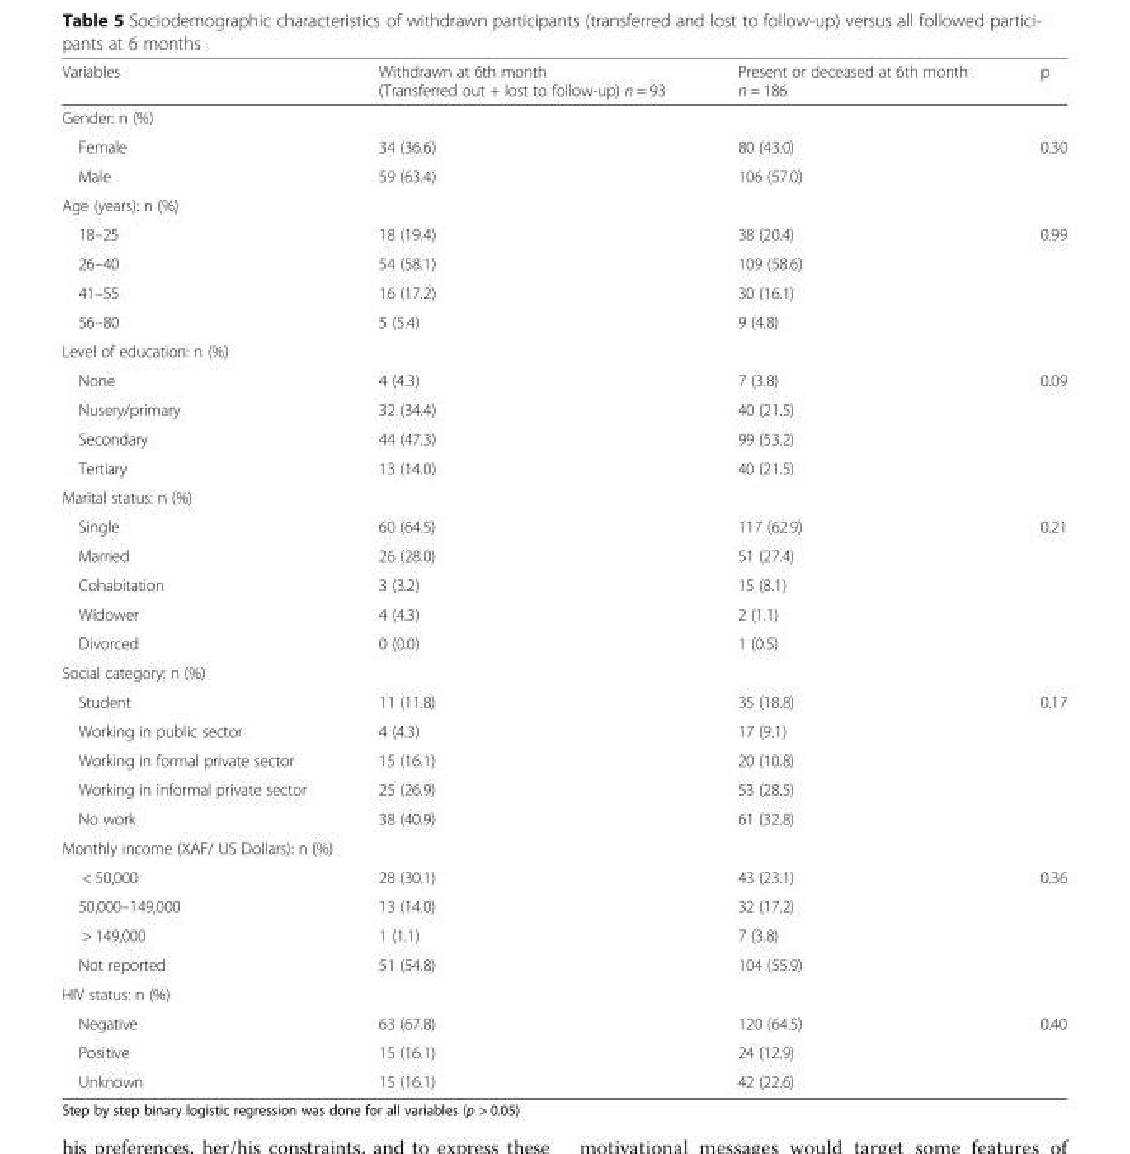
<table><thead><tr><td>Variables</td><td>Withdrawn at 6th month (Transferred out + lost to follow-up) n = 93</td><td>Present or deceased at 6th month n = 186</td><td>p</td></tr></thead><tbody><tr><td colspan="4">Gender: n (%)</td></tr><tr><td>Female</td><td>34 (36.6)</td><td>80 (43.0)</td><td rowspan="2">0.30</td></tr><tr><td>Male</td><td>59 (63.4)</td><td>106 (57.0)</td></tr><tr><td colspan="4">Age (years): n (%)</td></tr><tr><td>18–25</td><td>18 (19.4)</td><td>38 (20.4)</td><td rowspan="4">0.99</td></tr><tr><td>26–40</td><td>54 (58.1)</td><td>109 (58.6)</td></tr><tr><td>41–55</td><td>16 (17.2)</td><td>30 (16.1)</td></tr><tr><td>56–80</td><td>5 (5.4)</td><td>9 (4.8)</td></tr><tr><td colspan="4">Level of education: n (%)</td></tr><tr><td>None</td><td>4 (4.3)</td><td>7 (3.8)</td><td rowspan="4">0.09</td></tr><tr><td>Nusery/primary</td><td>32 (34.4)</td><td>40 (21.5)</td></tr><tr><td>Secondary</td><td>44 (47.3)</td><td>99 (53.2)</td></tr><tr><td>Tertiary</td><td>13 (14.0)</td><td>40 (21.5)</td></tr><tr><td colspan="4">Marital status: n (%)</td></tr><tr><td>Single</td><td>60 (64.5)</td><td>117 (62.9)</td><td rowspan="5">0.21</td></tr><tr><td>Married</td><td>26 (28.0)</td><td>51 (27.4)</td></tr><tr><td>Cohabitation</td><td>3 (3.2)</td><td>15 (8.1)</td></tr><tr><td>Widower</td><td>4 (4.3)</td><td>2 (1.1)</td></tr><tr><td>Divorced</td><td>0 (0.0)</td><td>1 (0.5)</td></tr><tr><td colspan="4">Social category: n (%)</td></tr><tr><td>Student</td><td>11 (11.8)</td><td>35 (18.8)</td><td rowspan="5">0.17</td></tr><tr><td>Working in public sector</td><td>4 (4.3)</td><td>17 (9.1)</td></tr><tr><td>Working in formal private sector</td><td>15 (16.1)</td><td>20 (10.8)</td></tr><tr><td>Working in informal private sector</td><td>25 (26.9)</td><td>53 (28.5)</td></tr><tr><td>No work</td><td>38 (40.9)</td><td>61 (32.8)</td></tr><tr><td colspan="4">Monthly income (XAF/ US Dollars): n (%)</td></tr><tr><td>&lt; 50,000</td><td>28 (30.1)</td><td>43 (23.1)</td><td rowspan="4">0.36</td></tr><tr><td>50,000–149,000</td><td>13 (14.0)</td><td>32 (17.2)</td></tr><tr><td>&gt; 149,000</td><td>1 (1.1)</td><td>7 (3.8)</td></tr><tr><td>Not reported</td><td>51 (54.8)</td><td>104 (55.9)</td></tr><tr><td colspan="4">HIV status: n (%)</td></tr><tr><td>Negative</td><td>63 (67.8)</td><td>120 (64.5)</td><td rowspan="3">0.40</td></tr><tr><td>Positive</td><td>15 (16.1)</td><td>24 (12.9)</td></tr><tr><td>Unknown</td><td>15 (16.1)</td><td>42 (22.6)</td></tr></tbody></table>